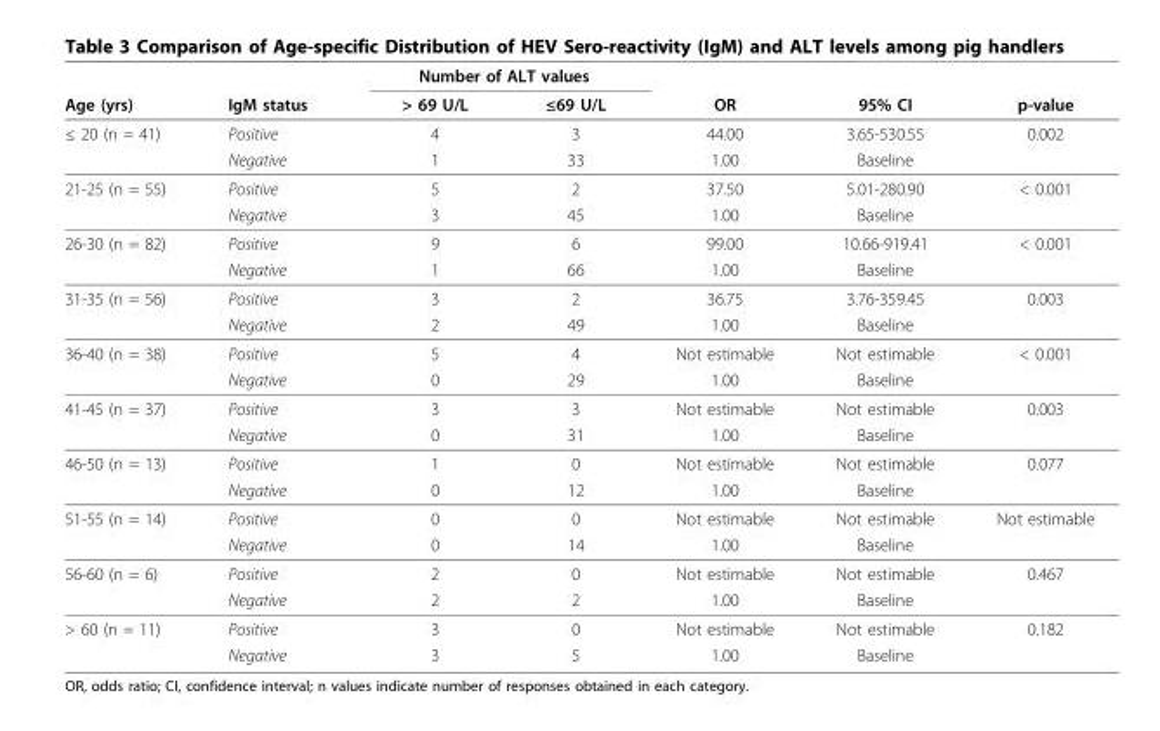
<table><thead><tr><td rowspan="2">Age (yrs)</td><td rowspan="2">IgM status</td><td colspan="2">Number of ALT values</td><td rowspan="2">OR</td><td rowspan="2">95% CI</td><td rowspan="2">p-value</td></tr><tr><td>&gt; 69 U/L</td><td>≤69 U/L</td></tr></thead><tbody><tr><td rowspan="2">≤ 20 (n = 41)</td><td>Positive</td><td>4</td><td>3</td><td>44.00</td><td>3.65-530.55</td><td>0.002</td></tr><tr><td>Negative</td><td>1</td><td>33</td><td>1.00</td><td>Baseline</td><td></td></tr><tr><td rowspan="2">21-25 (n = 55)</td><td>Positive</td><td>5</td><td>2</td><td>37.50</td><td>5.01-280.90</td><td>&lt; 0.001</td></tr><tr><td>Negative</td><td>3</td><td>45</td><td>1.00</td><td>Baseline</td><td></td></tr><tr><td rowspan="2">26-30 (n = 82)</td><td>Positive</td><td>9</td><td>6</td><td>99.00</td><td>10.66-919.41</td><td>&lt; 0.001</td></tr><tr><td>Negative</td><td>1</td><td>66</td><td>1.00</td><td>Baseline</td><td></td></tr><tr><td rowspan="2">31-35 (n = 56)</td><td>Positive</td><td>3</td><td>2</td><td>36.75</td><td>3.76-359.45</td><td>0.003</td></tr><tr><td>Negative</td><td>2</td><td>49</td><td>1.00</td><td>Baseline</td><td></td></tr><tr><td rowspan="2">36-40 (n = 38)</td><td>Positive</td><td>5</td><td>4</td><td>Not estimable</td><td>Not estimable</td><td>&lt; 0.001</td></tr><tr><td>Negative</td><td>0</td><td>29</td><td>1.00</td><td>Baseline</td><td></td></tr><tr><td rowspan="2">41-45 (n = 37)</td><td>Positive</td><td>3</td><td>3</td><td>Not estimable</td><td>Not estimable</td><td>0.003</td></tr><tr><td>Negative</td><td>0</td><td>31</td><td>1.00</td><td>Baseline</td><td></td></tr><tr><td rowspan="2">46-50 (n = 13)</td><td>Positive</td><td>1</td><td>0</td><td>Not estimable</td><td>Not estimable</td><td>0.077</td></tr><tr><td>Negative</td><td>0</td><td>12</td><td>1.00</td><td>Baseline</td><td></td></tr><tr><td rowspan="2">51-55 (n = 14)</td><td>Positive</td><td>0</td><td>0</td><td>Not estimable</td><td>Not estimable</td><td>Not estimable</td></tr><tr><td>Negative</td><td>0</td><td>14</td><td>1.00</td><td>Baseline</td><td></td></tr><tr><td rowspan="2">56-60 (n = 6)</td><td>Positive</td><td>2</td><td>0</td><td>Not estimable</td><td>Not estimable</td><td>0.467</td></tr><tr><td>Negative</td><td>2</td><td>2</td><td>1.00</td><td>Baseline</td><td></td></tr><tr><td rowspan="2">&gt; 60 (n = 11)</td><td>Positive</td><td>3</td><td>0</td><td>Not estimable</td><td>Not estimable</td><td>0.182</td></tr><tr><td>Negative</td><td>3</td><td>5</td><td>1.00</td><td>Baseline</td><td></td></tr></tbody></table>